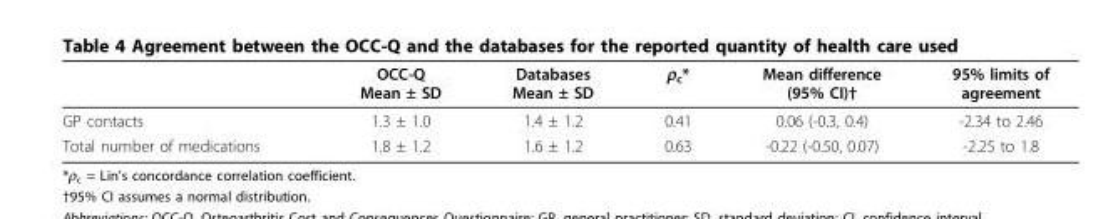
<table><thead><tr><td></td><td>OCC-Q Mean ± SD</td><td>Databases Mean ± SD</td><td>ρ<sub>c</sub>*</td><td>Mean difference (95% CI)†</td><td>95% limits of agreement</td></tr></thead><tbody><tr><td>GP contacts</td><td>1.3 ± 1.0</td><td>1.4 ± 1.2</td><td>0.41</td><td>0.06 (-0.3, 0.4)</td><td>-2.34 to 2.46</td></tr><tr><td>Total number of medications</td><td>1.8 ± 1.2</td><td>1.6 ± 1.2</td><td>0.63</td><td>-0.22 (-0.50, 0.07)</td><td>-2.25 to 1.8</td></tr></tbody></table>